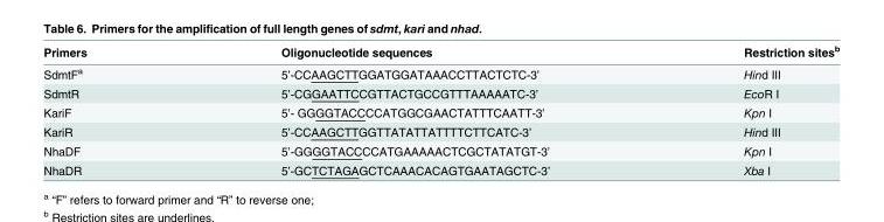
<table><thead><tr><td>Primers</td><td>Oligonucleotide sequences</td><td>Restriction sites<sup>b</sup></td></tr></thead><tbody><tr><td>SdmtF<sup>a</sup></td><td>5’-CCAAGCTTGGATGGATAAACCTTACTCTC-3’</td><td>Hind III</td></tr><tr><td>SdmtR</td><td>5’-CGGAATTCCGTTACTGCCGTTTAAAAATC-3’</td><td>EcoR I</td></tr><tr><td>KariF</td><td>5’- GGGGTACCCCATGGCGAACTATTTCAATT-3’</td><td>Kpn I</td></tr><tr><td>KariR</td><td>5’-CCAAGCTTGGTTATATTATTTTCTTCATC-3’</td><td>Hind III</td></tr><tr><td>NhaDF</td><td>5’-GGGGTACCCCATGAAAAACTCGCTATATGT-3’</td><td>Kpn I</td></tr><tr><td>NhaDR</td><td>5’-GCTCTAGAGCTCAAACACAGTGAATAGCTC-3’</td><td>Xba I</td></tr></tbody></table>